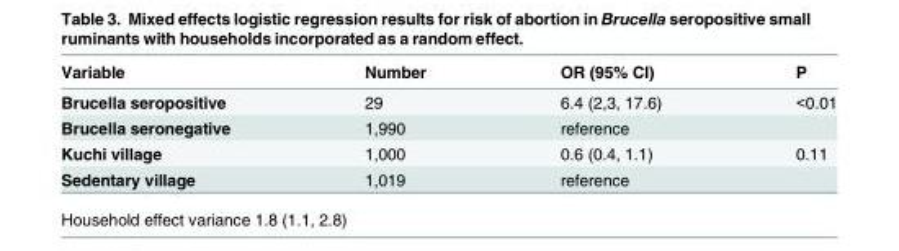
<table><thead><tr><td>Variable</td><td>Number</td><td>OR (95% CI)</td><td>P</td></tr></thead><tbody><tr><td>Brucella seropositive</td><td>29</td><td>6.4 (2,3, 17.6)</td><td>&lt;0.01</td></tr><tr><td>Brucella seronegative</td><td>1,990</td><td>reference</td><td></td></tr><tr><td>Kuchi village</td><td>1,000</td><td>0.6 (0.4, 1.1)</td><td>0.11</td></tr><tr><td>Sedentary village</td><td>1,019</td><td>reference</td><td></td></tr></tbody></table>